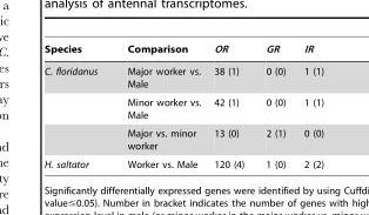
<table><thead><tr><td>Species</td><td>Comparison</td><td>OR</td><td>GR</td><td>IR</td></tr></thead><tbody><tr><td rowspan="3">C. floridanus</td><td>Major worker vs. Male</td><td>38 (1)</td><td>0 (0)</td><td>1 (1)</td></tr><tr><td>Minor worker vs. Male</td><td>42 (1)</td><td>0 (0)</td><td>1 (1)</td></tr><tr><td>Major vs. minor worker</td><td>13 (0)</td><td>2 (1)</td><td>0 (0)</td></tr><tr><td>H. saltator</td><td>Worker vs. Male</td><td>120 (4)</td><td>1 (0)</td><td>2 (2)</td></tr></tbody></table>